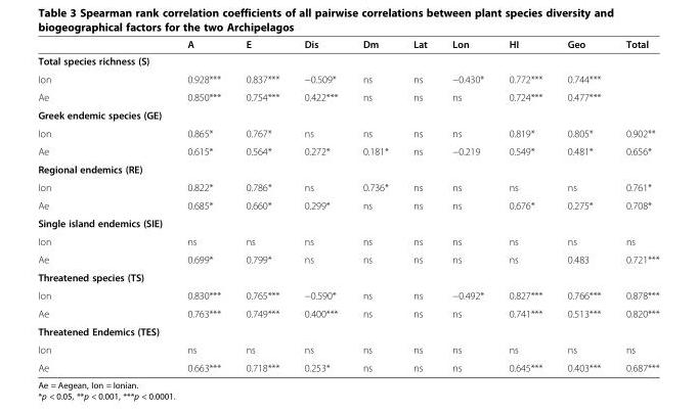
<table><thead><tr><td></td><td>A</td><td>E</td><td>Dis</td><td>Dm</td><td>Lat</td><td>Lon</td><td>HI</td><td>Geo</td><td>Total</td></tr></thead><tbody><tr><td colspan="10">Total species richness (S)</td></tr><tr><td>Ion</td><td>0.928***</td><td>0.837***</td><td>−0.509*</td><td>ns</td><td>ns</td><td>−0.430*</td><td>0.772***</td><td>0.744***</td><td></td></tr><tr><td>Ae</td><td>0.850***</td><td>0.754***</td><td>0.422***</td><td>ns</td><td>ns</td><td>ns</td><td>0.724***</td><td>0.477***</td><td></td></tr><tr><td colspan="10">Greek endemic species (GE)</td></tr><tr><td>Ion</td><td>0.865*</td><td>0.767*</td><td>ns</td><td>ns</td><td>ns</td><td>ns</td><td>0.819*</td><td>0.805*</td><td>0.902**</td></tr><tr><td>Ae</td><td>0.615*</td><td>0.564*</td><td>0.272*</td><td>0.181*</td><td>ns</td><td>−0.219</td><td>0.549*</td><td>0.481*</td><td>0.656*</td></tr><tr><td colspan="10">Regional endemics (RE)</td></tr><tr><td>Ion</td><td>0.822*</td><td>0.786*</td><td>ns</td><td>0.736*</td><td>ns</td><td>ns</td><td>ns</td><td>ns</td><td>0.761*</td></tr><tr><td>Ae</td><td>0.685*</td><td>0.660*</td><td>0.299*</td><td>ns</td><td>ns</td><td>ns</td><td>0.676*</td><td>0.275*</td><td>0.708*</td></tr><tr><td colspan="10">Single island endemics (SIE)</td></tr><tr><td>Ion</td><td>ns</td><td>ns</td><td>ns</td><td>ns</td><td>ns</td><td>ns</td><td>ns</td><td>ns</td><td>ns</td></tr><tr><td>Ae</td><td>0.699*</td><td>0.799*</td><td>ns</td><td>ns</td><td>ns</td><td>ns</td><td>ns</td><td>0.483</td><td>0.721***</td></tr><tr><td colspan="10">Threatened species (TS)</td></tr><tr><td>Ion</td><td>0.830***</td><td>0.765***</td><td>−0.590*</td><td>ns</td><td>ns</td><td>−0.492*</td><td>0.827***</td><td>0.766***</td><td>0.878***</td></tr><tr><td>Ae</td><td>0.763***</td><td>0.749***</td><td>0.400***</td><td>ns</td><td>ns</td><td>ns</td><td>0.741***</td><td>0.513***</td><td>0.820***</td></tr><tr><td colspan="10">Threatened Endemics (TES)</td></tr><tr><td>Ion</td><td>ns</td><td>ns</td><td>ns</td><td>ns</td><td>ns</td><td>ns</td><td>ns</td><td>ns</td><td>ns</td></tr><tr><td>Ae</td><td>0.663***</td><td>0.718***</td><td>0.253*</td><td>ns</td><td>ns</td><td>ns</td><td>0.645***</td><td>0.403***</td><td>0.687***</td></tr></tbody></table>